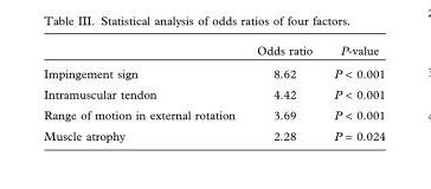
<table><thead><tr><td></td><td>Odds ratio</td><td>P-value</td></tr></thead><tbody><tr><td>Impingement sign</td><td>8.62</td><td>P &lt; 0.001</td></tr><tr><td>Intramuscular tendon</td><td>4.42</td><td>P &lt; 0.001</td></tr><tr><td>Range of motion in external rotation</td><td>3.69</td><td>P &lt; 0.001</td></tr><tr><td>Muscle atrophy</td><td>2.28</td><td>P = 0.024</td></tr></tbody></table>